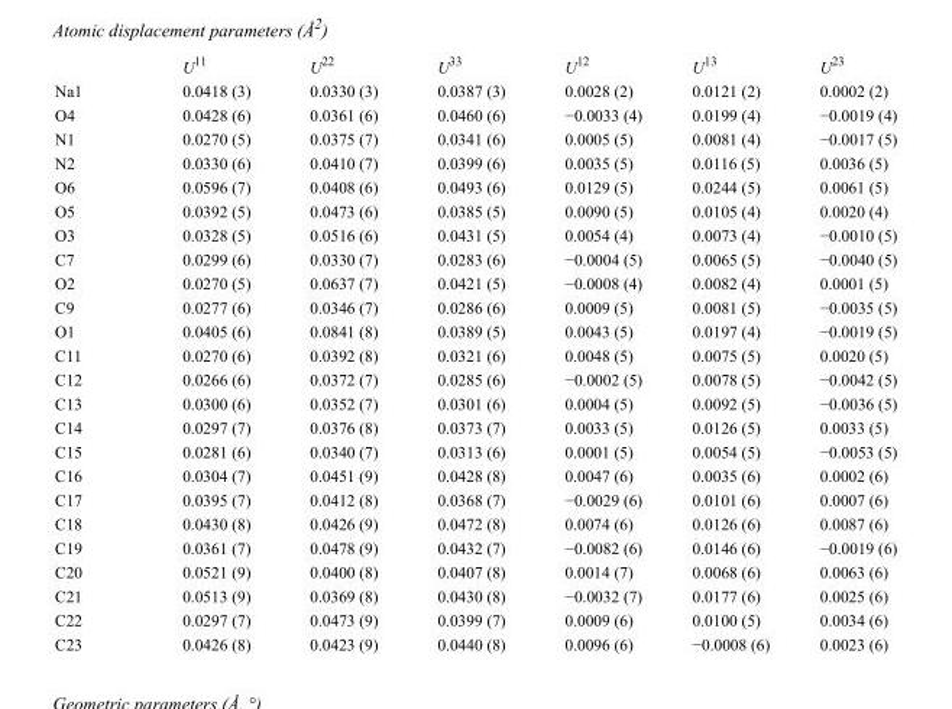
<table><thead><tr><td></td><td>U<sup>11</sup></td><td>U<sup>22</sup></td><td>U<sup>33</sup></td><td>U<sup>12</sup></td><td>U<sup>13</sup></td><td>U<sup>23</sup></td></tr></thead><tbody><tr><td>Na1</td><td>0.0418 (3)</td><td>0.0330 (3)</td><td>0.0387 (3)</td><td>0.0028 (2)</td><td>0.0121 (2)</td><td>0.0002 (2)</td></tr><tr><td>O4</td><td>0.0428 (6)</td><td>0.0361 (6)</td><td>0.0460 (6)</td><td>−0.0033 (4)</td><td>0.0199 (4)</td><td>−0.0019 (4)</td></tr><tr><td>N1</td><td>0.0270 (5)</td><td>0.0375 (7)</td><td>0.0341 (6)</td><td>0.0005 (5)</td><td>0.0081 (4)</td><td>−0.0017 (5)</td></tr><tr><td>N2</td><td>0.0330 (6)</td><td>0.0410 (7)</td><td>0.0399 (6)</td><td>0.0035 (5)</td><td>0.0116 (5)</td><td>0.0036 (5)</td></tr><tr><td>O6</td><td>0.0596 (7)</td><td>0.0408 (6)</td><td>0.0493 (6)</td><td>0.0129 (5)</td><td>0.0244 (5)</td><td>0.0061 (5)</td></tr><tr><td>O5</td><td>0.0392 (5)</td><td>0.0473 (6)</td><td>0.0385 (5)</td><td>0.0090 (5)</td><td>0.0105 (4)</td><td>0.0020 (4)</td></tr><tr><td>O3</td><td>0.0328 (5)</td><td>0.0516 (6)</td><td>0.0431 (5)</td><td>0.0054 (4)</td><td>0.0073 (4)</td><td>−0.0010 (5)</td></tr><tr><td>C7</td><td>0.0299 (6)</td><td>0.0330 (7)</td><td>0.0283 (6)</td><td>−0.0004 (5)</td><td>0.0065 (5)</td><td>−0.0040 (5)</td></tr><tr><td>O2</td><td>0.0270 (5)</td><td>0.0637 (7)</td><td>0.0421 (5)</td><td>−0.0008 (4)</td><td>0.0082 (4)</td><td>0.0001 (5)</td></tr><tr><td>C9</td><td>0.0277 (6)</td><td>0.0346 (7)</td><td>0.0286 (6)</td><td>0.0009 (5)</td><td>0.0081 (5)</td><td>−0.0035 (5)</td></tr><tr><td>O1</td><td>0.0405 (6)</td><td>0.0841 (8)</td><td>0.0389 (5)</td><td>0.0043 (5)</td><td>0.0197 (4)</td><td>−0.0019 (5)</td></tr><tr><td>C11</td><td>0.0270 (6)</td><td>0.0392 (8)</td><td>0.0321 (6)</td><td>0.0048 (5)</td><td>0.0075 (5)</td><td>0.0020 (5)</td></tr><tr><td>C12</td><td>0.0266 (6)</td><td>0.0372 (7)</td><td>0.0285 (6)</td><td>−0.0002 (5)</td><td>0.0078 (5)</td><td>−0.0042 (5)</td></tr><tr><td>C13</td><td>0.0300 (6)</td><td>0.0352 (7)</td><td>0.0301 (6)</td><td>0.0004 (5)</td><td>0.0092 (5)</td><td>−0.0036 (5)</td></tr><tr><td>C14</td><td>0.0297 (7)</td><td>0.0376 (8)</td><td>0.0373 (7)</td><td>0.0033 (5)</td><td>0.0126 (5)</td><td>0.0033 (5)</td></tr><tr><td>C15</td><td>0.0281 (6)</td><td>0.0340 (7)</td><td>0.0313 (6)</td><td>0.0001 (5)</td><td>0.0054 (5)</td><td>−0.0053 (5)</td></tr><tr><td>C16</td><td>0.0304 (7)</td><td>0.0451 (9)</td><td>0.0428 (8)</td><td>0.0047 (6)</td><td>0.0035 (6)</td><td>0.0002 (6)</td></tr><tr><td>C17</td><td>0.0395 (7)</td><td>0.0412 (8)</td><td>0.0368 (7)</td><td>−0.0029 (6)</td><td>0.0101 (6)</td><td>0.0007 (6)</td></tr><tr><td>C18</td><td>0.0430 (8)</td><td>0.0426 (9)</td><td>0.0472 (8)</td><td>0.0074 (6)</td><td>0.0126 (6)</td><td>0.0087 (6)</td></tr><tr><td>C19</td><td>0.0361 (7)</td><td>0.0478 (9)</td><td>0.0432 (7)</td><td>−0.0082 (6)</td><td>0.0146 (6)</td><td>−0.0019 (6)</td></tr><tr><td>C20</td><td>0.0521 (9)</td><td>0.0400 (8)</td><td>0.0407 (8)</td><td>0.0014 (7)</td><td>0.0068 (6)</td><td>0.0063 (6)</td></tr><tr><td>C21</td><td>0.0513 (9)</td><td>0.0369 (8)</td><td>0.0430 (8)</td><td>−0.0032 (7)</td><td>0.0177 (6)</td><td>0.0025 (6)</td></tr><tr><td>C22</td><td>0.0297 (7)</td><td>0.0473 (9)</td><td>0.0399 (7)</td><td>0.0009 (6)</td><td>0.0100 (5)</td><td>0.0034 (6)</td></tr><tr><td>C23</td><td>0.0426 (8)</td><td>0.0423 (9)</td><td>0.0440 (8)</td><td>0.0096 (6)</td><td>−0.0008 (6)</td><td>0.0023 (6)</td></tr></tbody></table>